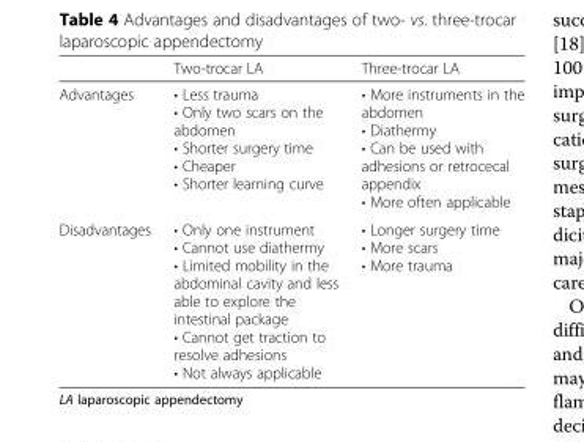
<table><thead><tr><td></td><td>Two-trocar LA</td><td>Three-trocar LA</td></tr></thead><tbody><tr><td>Advantages</td><td>• Less trauma • Only two scars on the abdomen • Shorter surgery time • Cheaper • Shorter learning curve</td><td>• More instruments in the abdomen • Diathermy • Can be used with adhesions or retrocecal appendix • More often applicable</td></tr><tr><td>Disadvantages</td><td>• Only one instrument • Cannot use diathermy • Limited mobility in the abdominal cavity and less able to explore the intestinal package • Cannot get traction to resolve adhesions • Not always applicable</td><td>• Longer surgery time • More scars • More trauma</td></tr></tbody></table>